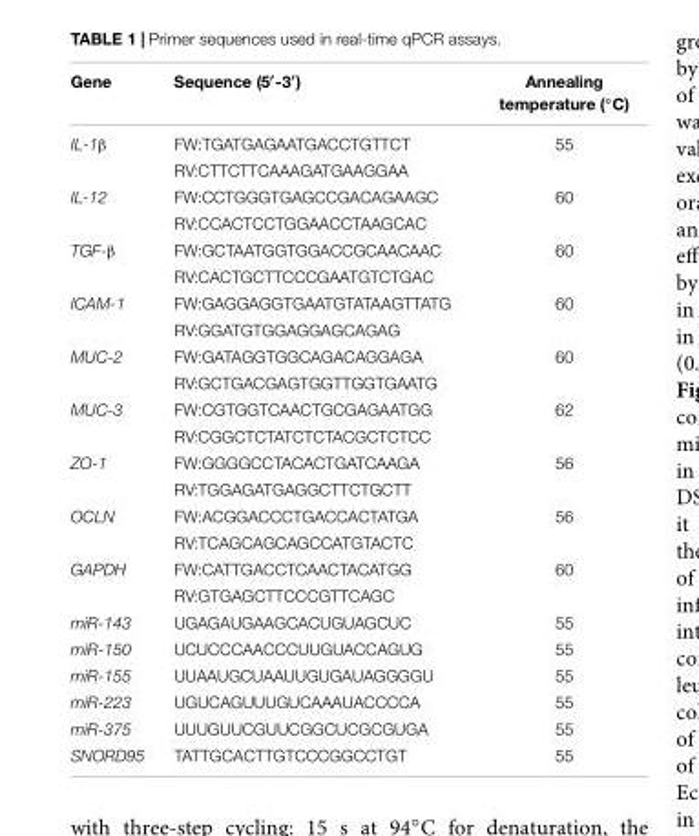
<table><thead><tr><td>Gene</td><td>Sequence (5′-3′)</td><td>Annealing temperature (◦C)</td></tr></thead><tbody><tr><td rowspan="2">IL-1β</td><td>FW:TGATGAGAATGACCTGTTCT</td><td>55</td></tr><tr><td>RV:CTTCTTCAAAGATGAAGGAA</td><td></td></tr><tr><td rowspan="2">IL-12</td><td>FW:CCTGGGTGAGCCGACAGAAGC</td><td>60</td></tr><tr><td>RV:CCACTCCTGGAACCTAAGCAC</td><td></td></tr><tr><td rowspan="2">TGF-β</td><td>FW:GCTAATGGTGGACCGCAACAAC</td><td>60</td></tr><tr><td>RV:CACTGCTTCCCGAATGTCTGAC</td><td></td></tr><tr><td rowspan="2">ICAM-1</td><td>FW:GAGGAGGTGAATGTATAAGTTATG</td><td>60</td></tr><tr><td>RV:GGATGTGGAGGAGCAGAG</td><td></td></tr><tr><td rowspan="2">MUC-2</td><td>FW:GATAGGTGGCAGACAGGAGA</td><td>60</td></tr><tr><td>RV:GCTGACGAGTGGTTGGTGAATG</td><td></td></tr><tr><td rowspan="2">MUC-3</td><td>FW:CGTGGTCAACTGCGAGAATGG</td><td>62</td></tr><tr><td>RV:CGGCTCTATCTCTACGCTCTCC</td><td></td></tr><tr><td rowspan="2">ZO-1</td><td>FW:GGGGCCTACACTGATCAAGA</td><td>56</td></tr><tr><td>RV:TGGAGATGAGGCTTCTGCTT</td><td></td></tr><tr><td rowspan="2">OCLN</td><td>FW:ACGGACCCTGACCACTATGA</td><td>56</td></tr><tr><td>RV:TCAGCAGCAGCCATGTACTC</td><td></td></tr><tr><td rowspan="2">GAPDH</td><td>FW:CATTGACCTCAACTACATGG</td><td>60</td></tr><tr><td>RV:GTGAGCTTCCCGTTCAGC</td><td></td></tr><tr><td>miR-143</td><td>UGAGAUGAAGCACUGUAGCUC</td><td>55</td></tr><tr><td>miR-150</td><td>UCUCCCAACCCUUGUACCAGUG</td><td>55</td></tr><tr><td>miR-155</td><td>UUAAUGCUAAUUGUGAUAGGGGU</td><td>55</td></tr><tr><td>miR-223</td><td>UGUCAGUUUGUCAAAUACCCCA</td><td>55</td></tr><tr><td>miR-375</td><td>UUUGUUCGUUCGGCUCGCGUGA</td><td>55</td></tr><tr><td>SNORD95</td><td>TATTGCACTTGTCCCGGCCTGT</td><td>55</td></tr></tbody></table>